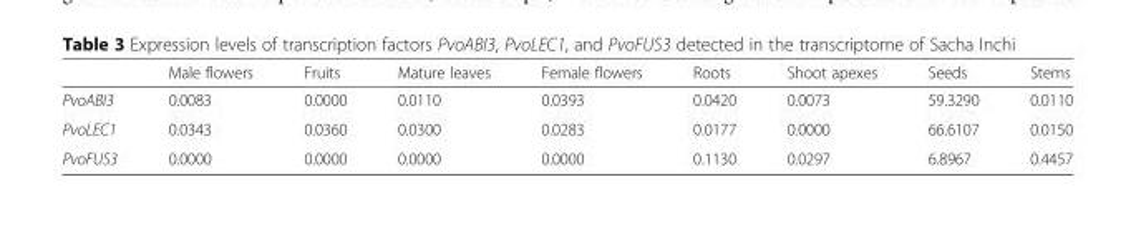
<table><thead><tr><td></td><td>Male flowers</td><td>Fruits</td><td>Mature leaves</td><td>Female flowers</td><td>Roots</td><td>Shoot apexes</td><td>Seeds</td><td>Stems</td></tr></thead><tbody><tr><td>PvoABI3</td><td>0.0083</td><td>0.0000</td><td>0.0110</td><td>0.0393</td><td>0.0420</td><td>0.0073</td><td>59.3290</td><td>0.0110</td></tr><tr><td>PvoLEC1</td><td>0.0343</td><td>0.0360</td><td>0.0300</td><td>0.0283</td><td>0.0177</td><td>0.0000</td><td>66.6107</td><td>0.0150</td></tr><tr><td>PvoFUS3</td><td>0.0000</td><td>0.0000</td><td>0.0000</td><td>0.0000</td><td>0.1130</td><td>0.0297</td><td>6.8967</td><td>0.4457</td></tr></tbody></table>